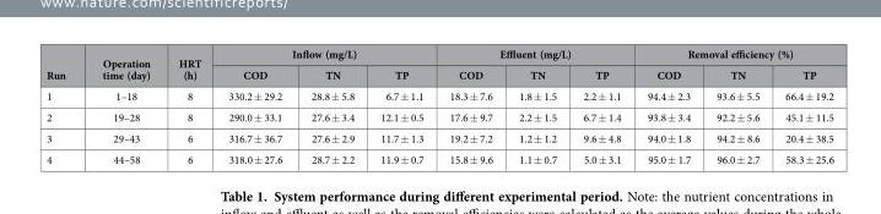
<table><thead><tr><td rowspan="2">Run</td><td rowspan="2">Operation time (day)</td><td rowspan="2">HRT (h)</td><td colspan="3">Inflow (mg/L)</td><td colspan="3">Effluent (mg/L)</td><td colspan="3">Removal efficiency (%)</td></tr><tr><td>COD</td><td>TN</td><td>TP</td><td>COD</td><td>TN</td><td>TP</td><td>COD</td><td>TN</td><td>TP</td></tr></thead><tbody><tr><td>1</td><td>1–18</td><td>8</td><td>330.2 ± 29.2</td><td>28.8 ± 5.8</td><td>6.7 ± 1.1</td><td>18.3 ± 7.6</td><td>1.8 ± 1.5</td><td>2.2 ± 1.1</td><td>94.4 ± 2.3</td><td>93.6 ± 5.5</td><td>66.4 ± 19.2</td></tr><tr><td>2</td><td>19–28</td><td>8</td><td>290.0 ± 33.1</td><td>27.6 ± 3.4</td><td>12.1 ± 0.5</td><td>17.6 ± 9.7</td><td>2.2 ± 1.5</td><td>6.7 ± 1.4</td><td>93.8 ± 3.4</td><td>92.2 ± 5.6</td><td>45.1 ± 11.5</td></tr><tr><td>3</td><td>29–43</td><td>6</td><td>316.7 ± 36.7</td><td>27.6 ± 2.9</td><td>11.7 ± 1.3</td><td>19.2 ± 7.2</td><td>1.2 ± 1.2</td><td>9.6 ± 4.8</td><td>94.0 ± 1.8</td><td>94.2 ± 8.6</td><td>20.4 ± 38.5</td></tr><tr><td>4</td><td>44–58</td><td>6</td><td>318.0 ± 27.6</td><td>28.7 ± 2.2</td><td>11.9 ± 0.7</td><td>15.8 ± 9.6</td><td>1.1 ± 0.7</td><td>5.0 ± 3.1</td><td>95.0 ± 1.7</td><td>96.0 ± 2.7</td><td>58.3 ± 25.6</td></tr></tbody></table>